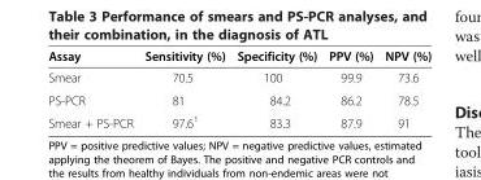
<table><thead><tr><td>Assay</td><td>Sensitivity (%)</td><td>Specificity (%)</td><td>PPV (%)</td><td>NPV (%)</td></tr></thead><tbody><tr><td>Smear</td><td>70.5</td><td>100</td><td>99.9</td><td>73.6</td></tr><tr><td>PS-PCR</td><td>81</td><td>84.2</td><td>86.2</td><td>78.5</td></tr><tr><td>Smear + PS-PCR</td><td>97.6<sup>1</sup></td><td>83.3</td><td>87.9</td><td>91</td></tr></tbody></table>